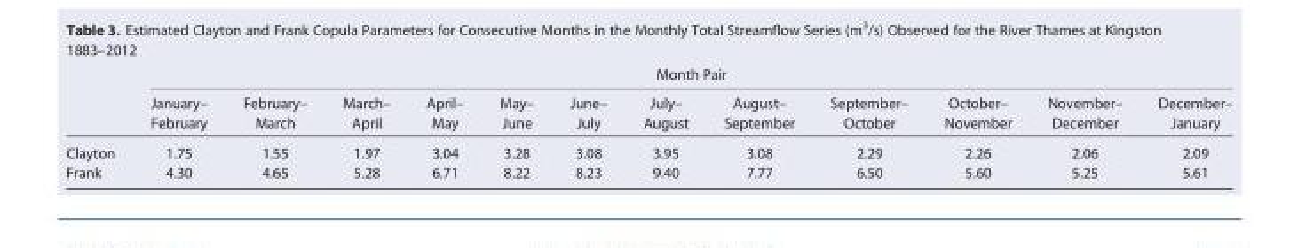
<table><thead><tr><td rowspan="2"></td><td colspan="12">Month Pair</td></tr><tr><td>January– February</td><td>February– March</td><td>March– April</td><td>April– May</td><td>May– June</td><td>June– July</td><td>July– August</td><td>August– September</td><td>September– October</td><td>October– November</td><td>November– December</td><td>December– January</td></tr></thead><tbody><tr><td>Clayton</td><td>1.75</td><td>1.55</td><td>1.97</td><td>3.04</td><td>3.28</td><td>3.08</td><td>3.95</td><td>3.08</td><td>2.29</td><td>2.26</td><td>2.06</td><td>2.09</td></tr><tr><td>Frank</td><td>4.30</td><td>4.65</td><td>5.28</td><td>6.71</td><td>8.22</td><td>8.23</td><td>9.40</td><td>7.77</td><td>6.50</td><td>5.60</td><td>5.25</td><td>5.61</td></tr></tbody></table>